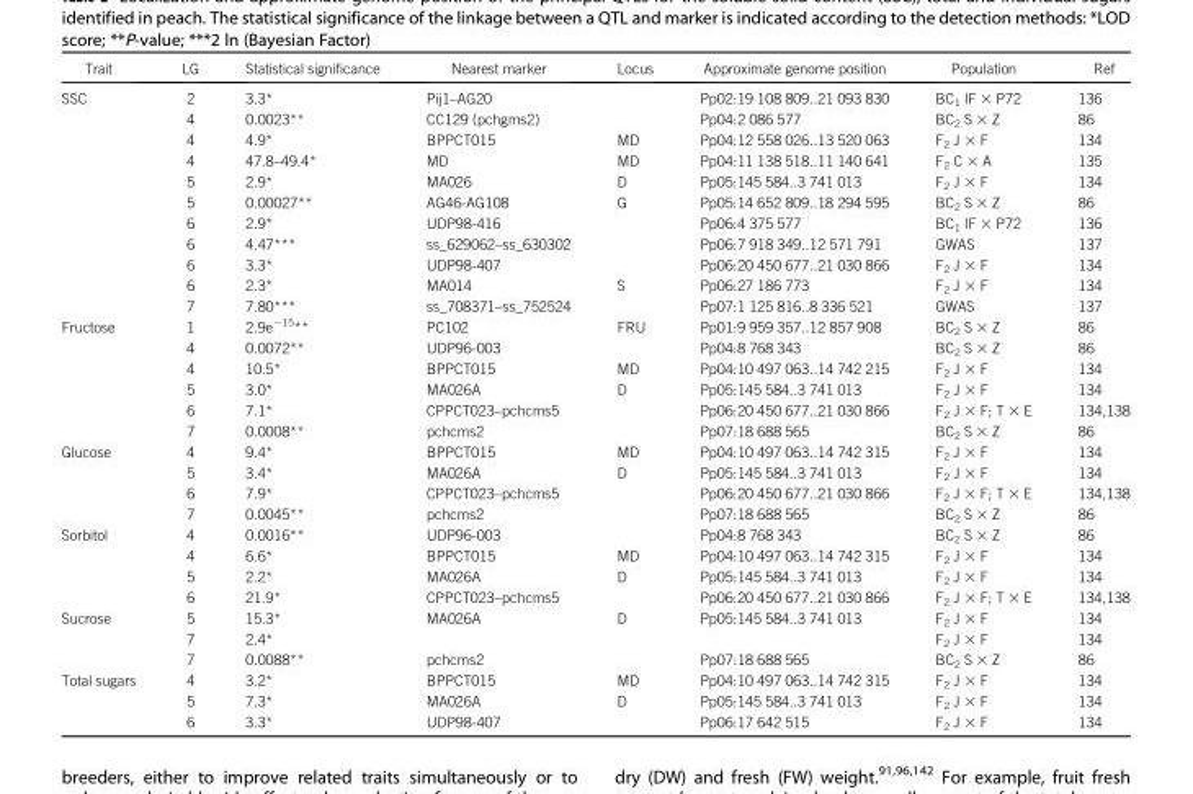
<table><thead><tr><td>Trait</td><td>LG</td><td>Statistical significance</td><td>Nearest marker</td><td>Locus</td><td>Approximate genome position</td><td>Population</td><td>Ref</td></tr></thead><tbody><tr><td rowspan="11">SSC</td><td>2</td><td>3.3*</td><td>Pij1–AG20</td><td></td><td>Pp02:19 108 809..21 093 830</td><td>BC<sub>1</sub> IF × P72</td><td>136</td></tr><tr><td>4</td><td>0.0023**</td><td>CC129 (pchgms2)</td><td></td><td>Pp04:2 086 577</td><td>BC<sub>2</sub> S × Z</td><td>86</td></tr><tr><td>4</td><td>4.9*</td><td>BPPCT015</td><td>MD</td><td>Pp04:12 558 026..13 520 063</td><td>F<sub>2</sub> J × F</td><td>134</td></tr><tr><td>4</td><td>47.8–49.4*</td><td>MD</td><td>MD</td><td>Pp04:11 138 518..11 140 641</td><td>F<sub>2</sub> C × A</td><td>135</td></tr><tr><td>5</td><td>2.9*</td><td>MA026</td><td>D</td><td>Pp05:145 584..3 741 013</td><td>F<sub>2</sub> J × F</td><td>134</td></tr><tr><td>5</td><td>0.00027**</td><td>AG46-AG108</td><td>G</td><td>Pp05:14 652 809..18 294 595</td><td>BC<sub>2</sub> S × Z</td><td>86</td></tr><tr><td>6</td><td>2.9*</td><td>UDP98-416</td><td></td><td>Pp06:4 375 577</td><td>BC<sub>1</sub> IF × P72</td><td>136</td></tr><tr><td>6</td><td>4.47***</td><td>ss_629062–ss_630302</td><td></td><td>Pp06:7 918 349..12 571 791</td><td>GWAS</td><td>137</td></tr><tr><td>6</td><td>3.3*</td><td>UDP98-407</td><td></td><td>Pp06:20 450 677..21 030 866</td><td>F<sub>2</sub> J × F</td><td>134</td></tr><tr><td>6</td><td>2.3*</td><td>MA014</td><td>S</td><td>Pp06:27 186 773</td><td>F<sub>2</sub> J × F</td><td>134</td></tr><tr><td>7</td><td>7.80***</td><td>ss_708371–ss_752524</td><td></td><td>Pp07:1 125 816..8 336 521</td><td>GWAS</td><td>137</td></tr><tr><td rowspan="6">Fructose</td><td>1</td><td>2.9e<sup>−15</sup>**</td><td>PC102</td><td>FRU</td><td>Pp01:9 959 357..12 857 908</td><td>BC<sub>2</sub> S × Z</td><td>86</td></tr><tr><td>4</td><td>0.0072**</td><td>UDP96-003</td><td></td><td>Pp04:8 768 343</td><td>BC<sub>2</sub> S × Z</td><td>86</td></tr><tr><td>4</td><td>10.5*</td><td>BPPCT015</td><td>MD</td><td>Pp04:10 497 063..14 742 215</td><td>F<sub>2</sub> J × F</td><td>134</td></tr><tr><td>5</td><td>3.0*</td><td>MA026A</td><td>D</td><td>Pp05:145 584..3 741 013</td><td>F<sub>2</sub> J × F</td><td>134</td></tr><tr><td>6</td><td>7.1*</td><td>CPPCT023–pchcms5</td><td></td><td>Pp06:20 450 677..21 030 866</td><td>F<sub>2</sub> J × F; T × E</td><td>134,138</td></tr><tr><td>7</td><td>0.0008**</td><td>pchcms2</td><td></td><td>Pp07:18 688 565</td><td>BC<sub>2</sub> S × Z</td><td>86</td></tr><tr><td rowspan="4">Glucose</td><td>4</td><td>9.4*</td><td>BPPCT015</td><td>MD</td><td>Pp04:10 497 063..14 742 315</td><td>F<sub>2</sub> J × F</td><td>134</td></tr><tr><td>5</td><td>3.4*</td><td>MA026A</td><td>D</td><td>Pp05:145 584..3 741 013</td><td>F<sub>2</sub> J × F</td><td>134</td></tr><tr><td>6</td><td>7.9*</td><td>CPPCT023–pchcms5</td><td></td><td>Pp06:20 450 677..21 030 866</td><td>F<sub>2</sub> J × F; T × E</td><td>134,138</td></tr><tr><td>7</td><td>0.0045**</td><td>pchcms2</td><td></td><td>Pp07:18 688 565</td><td>BC<sub>2</sub> S × Z</td><td>86</td></tr><tr><td rowspan="4">Sorbitol</td><td>4</td><td>0.0016**</td><td>UDP96-003</td><td></td><td>Pp04:8 768 343</td><td>BC<sub>2</sub> S × Z</td><td>86</td></tr><tr><td>4</td><td>6.6*</td><td>BPPCT015</td><td>MD</td><td>Pp04:10 497 063..14 742 315</td><td>F<sub>2</sub> J × F</td><td>134</td></tr><tr><td>5</td><td>2.2*</td><td>MA026A</td><td>D</td><td>Pp05:145 584..3 741 013</td><td>F<sub>2</sub> J × F</td><td>134</td></tr><tr><td>6</td><td>21.9*</td><td>CPPCT023–pchcms5</td><td></td><td>Pp06:20 450 677..21 030 866</td><td>F<sub>2</sub> J × F; T × E</td><td>134,138</td></tr><tr><td rowspan="3">Sucrose</td><td>5</td><td>15.3*</td><td>MA026A</td><td>D</td><td>Pp05:145 584..3 741 013</td><td>F<sub>2</sub> J × F</td><td>134</td></tr><tr><td>7</td><td>2.4*</td><td></td><td></td><td></td><td>F<sub>2</sub> J × F</td><td>134</td></tr><tr><td>7</td><td>0.0088**</td><td>pchcms2</td><td></td><td>Pp07:18 688 565</td><td>BC<sub>2</sub> S × Z</td><td>86</td></tr><tr><td rowspan="3">Total sugars</td><td>4</td><td>3.2*</td><td>BPPCT015</td><td>MD</td><td>Pp04:10 497 063..14 742 315</td><td>F<sub>2</sub> J × F</td><td>134</td></tr><tr><td>5</td><td>7.3*</td><td>MA026A</td><td>D</td><td>Pp05:145 584..3 741 013</td><td>F<sub>2</sub> J × F</td><td>134</td></tr><tr><td>6</td><td>3.3*</td><td>UDP98-407</td><td></td><td>Pp06:17 642 515</td><td>F<sub>2</sub> J × F</td><td>134</td></tr></tbody></table>